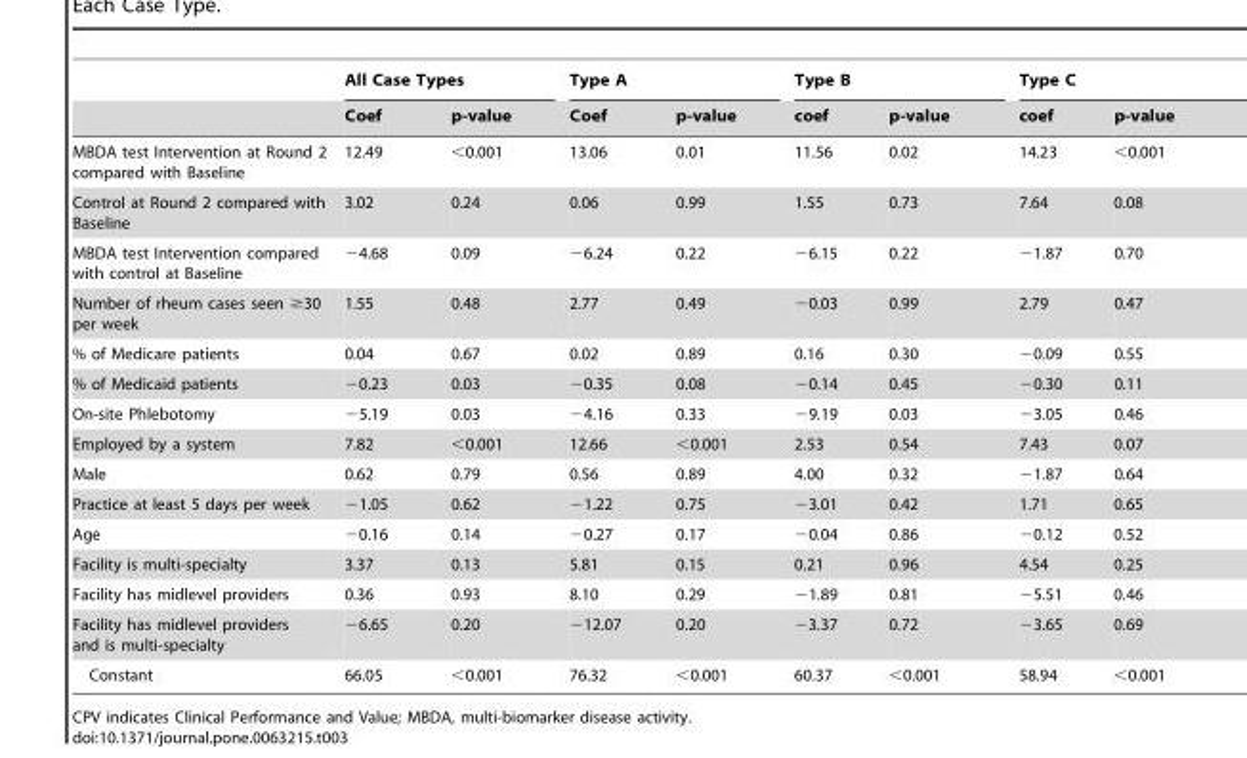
<table><thead><tr><td rowspan="2"></td><td colspan="2">All Case Types</td><td colspan="2">Type A</td><td colspan="2">Type B</td><td colspan="2">Type C</td></tr><tr><td>Coef</td><td>p-value</td><td>Coef</td><td>p-value</td><td>coef</td><td>p-value</td><td>coef</td><td>p-value</td></tr></thead><tbody><tr><td>MBDA test Intervention at Round 2 compared with Baseline</td><td>12.49</td><td>&lt;0.001</td><td>13.06</td><td>0.01</td><td>11.56</td><td>0.02</td><td>14.23</td><td>&lt;0.001</td></tr><tr><td>Control at Round 2 compared with Baseline</td><td>3.02</td><td>0.24</td><td>0.06</td><td>0.99</td><td>1.55</td><td>0.73</td><td>7.64</td><td>0.08</td></tr><tr><td>MBDA test Intervention compared with control at Baseline</td><td>−4.68</td><td>0.09</td><td>−6.24</td><td>0.22</td><td>−6.15</td><td>0.22</td><td>−1.87</td><td>0.70</td></tr><tr><td>Number of rheum cases seen ≥30 per week</td><td>1.55</td><td>0.48</td><td>2.77</td><td>0.49</td><td>−0.03</td><td>0.99</td><td>2.79</td><td>0.47</td></tr><tr><td>% of Medicare patients</td><td>0.04</td><td>0.67</td><td>0.02</td><td>0.89</td><td>0.16</td><td>0.30</td><td>−0.09</td><td>0.55</td></tr><tr><td>% of Medicaid patients</td><td>−0.23</td><td>0.03</td><td>−0.35</td><td>0.08</td><td>−0.14</td><td>0.45</td><td>−0.30</td><td>0.11</td></tr><tr><td>On-site Phlebotomy</td><td>−5.19</td><td>0.03</td><td>−4.16</td><td>0.33</td><td>−9.19</td><td>0.03</td><td>−3.05</td><td>0.46</td></tr><tr><td>Employed by a system</td><td>7.82</td><td>&lt;0.001</td><td>12.66</td><td>&lt;0.001</td><td>2.53</td><td>0.54</td><td>7.43</td><td>0.07</td></tr><tr><td>Male</td><td>0.62</td><td>0.79</td><td>0.56</td><td>0.89</td><td>4.00</td><td>0.32</td><td>−1.87</td><td>0.64</td></tr><tr><td>Practice at least 5 days per week</td><td>−1.05</td><td>0.62</td><td>−1.22</td><td>0.75</td><td>−3.01</td><td>0.42</td><td>1.71</td><td>0.65</td></tr><tr><td>Age</td><td>−0.16</td><td>0.14</td><td>−0.27</td><td>0.17</td><td>−0.04</td><td>0.86</td><td>−0.12</td><td>0.52</td></tr><tr><td>Facility is multi-specialty</td><td>3.37</td><td>0.13</td><td>5.81</td><td>0.15</td><td>0.21</td><td>0.96</td><td>4.54</td><td>0.25</td></tr><tr><td>Facility has midlevel providers</td><td>0.36</td><td>0.93</td><td>8.10</td><td>0.29</td><td>−1.89</td><td>0.81</td><td>−5.51</td><td>0.46</td></tr><tr><td>Facility has midlevel providers and is multi-specialty</td><td>−6.65</td><td>0.20</td><td>−12.07</td><td>0.20</td><td>−3.37</td><td>0.72</td><td>−3.65</td><td>0.69</td></tr><tr><td>Constant</td><td>66.05</td><td>&lt;0.001</td><td>76.32</td><td>&lt;0.001</td><td>60.37</td><td>&lt;0.001</td><td>58.94</td><td>&lt;0.001</td></tr></tbody></table>